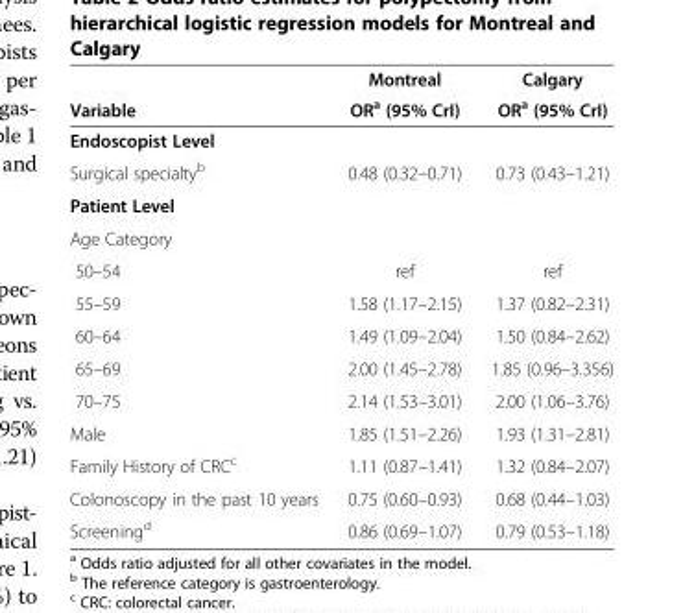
<table><thead><tr><td rowspan="2">Variable</td><td rowspan="2">Montreal OR<sup>a</sup> (95% CrI)</td><td rowspan="2">Calgary OR<sup>a</sup> (95% CrI)</td></tr><tr></tr></thead><tbody><tr><td colspan="3">Endoscopist Level</td></tr><tr><td>Surgical specialty<sup>b</sup></td><td>0.48 (0.32–0.71)</td><td>0.73 (0.43–1.21)</td></tr><tr><td colspan="3">Patient Level</td></tr><tr><td colspan="3">Age Category</td></tr><tr><td>50–54</td><td>ref</td><td>ref</td></tr><tr><td>55–59</td><td>1.58 (1.17–2.15)</td><td>1.37 (0.82–2.31)</td></tr><tr><td>60–64</td><td>1.49 (1.09–2.04)</td><td>1.50 (0.84–2.62)</td></tr><tr><td>65–69</td><td>2.00 (1.45–2.78)</td><td>1.85 (0.96–3.356)</td></tr><tr><td>70–75</td><td>2.14 (1.53–3.01)</td><td>2.00 (1.06–3.76)</td></tr><tr><td>Male</td><td>1.85 (1.51–2.26)</td><td>1.93 (1.31–2.81)</td></tr><tr><td>Family History of CRC<sup>c</sup></td><td>1.11 (0.87–1.41)</td><td>1.32 (0.84–2.07)</td></tr><tr><td>Colonoscopy in the past 10 years</td><td>0.75 (0.60–0.93)</td><td>0.68 (0.44–1.03)</td></tr><tr><td>Screening<sup>d</sup></td><td>0.86 (0.69–1.07)</td><td>0.79 (0.53–1.18)</td></tr></tbody></table>